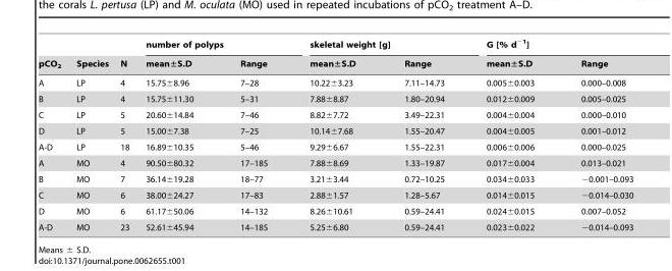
<table><thead><tr><td rowspan="2">pCO<sub>2</sub></td><td rowspan="2">Species</td><td rowspan="2">N</td><td colspan="2">number of polyps</td><td colspan="2">skeletal weight [g]</td><td colspan="2">G [% d<sup>−1</sup>]</td></tr><tr><td>mean±S.D</td><td>Range</td><td>mean±S.D</td><td>Range</td><td>mean±S.D</td><td>Range</td></tr></thead><tbody><tr><td>A</td><td>LP</td><td>4</td><td>15.75±8.96</td><td>7–28</td><td>10.22±3.23</td><td>7.11–14.73</td><td>0.005±0.003</td><td>0.000–0.008</td></tr><tr><td>B</td><td>LP</td><td>4</td><td>15.75±11.30</td><td>5–31</td><td>7.88±8.87</td><td>1.80–20.94</td><td>0.012±0.009</td><td>0.005–0.025</td></tr><tr><td>C</td><td>LP</td><td>5</td><td>20.60±14.84</td><td>7–46</td><td>8.82±7.72</td><td>3.49–22.31</td><td>0.004±0.004</td><td>0.000–0.010</td></tr><tr><td>D</td><td>LP</td><td>5</td><td>15.00±7.38</td><td>7–25</td><td>10.14±7.68</td><td>1.55–20.47</td><td>0.004±0.005</td><td>0.001–0.012</td></tr><tr><td>A-D</td><td>LP</td><td>18</td><td>16.89±10.35</td><td>5–46</td><td>9.29±6.67</td><td>1.55–22.31</td><td>0.006±0.006</td><td>0.000–0.025</td></tr><tr><td>A</td><td>MO</td><td>4</td><td>90.50±80.32</td><td>17–185</td><td>7.88±8.69</td><td>1.33–19.87</td><td>0.017±0.004</td><td>0.013–0.021</td></tr><tr><td>B</td><td>MO</td><td>7</td><td>36.14±19.28</td><td>18–77</td><td>3.21±3.44</td><td>0.72–10.25</td><td>0.034±0.033</td><td>−0.001–0.093</td></tr><tr><td>C</td><td>MO</td><td>6</td><td>38.00±24.27</td><td>17–83</td><td>2.88±1.57</td><td>1.28–5.67</td><td>0.014±0.015</td><td>−0.014–0.030</td></tr><tr><td>D</td><td>MO</td><td>6</td><td>61.17±50.06</td><td>14–132</td><td>8.26±10.61</td><td>0.59–24.41</td><td>0.024±0.015</td><td>0.007–0.052</td></tr><tr><td>A-D</td><td>MO</td><td>23</td><td>52.61±45.94</td><td>14–185</td><td>5.25±6.80</td><td>0.59–24.41</td><td>0.023±0.022</td><td>−0.014–0.093</td></tr></tbody></table>